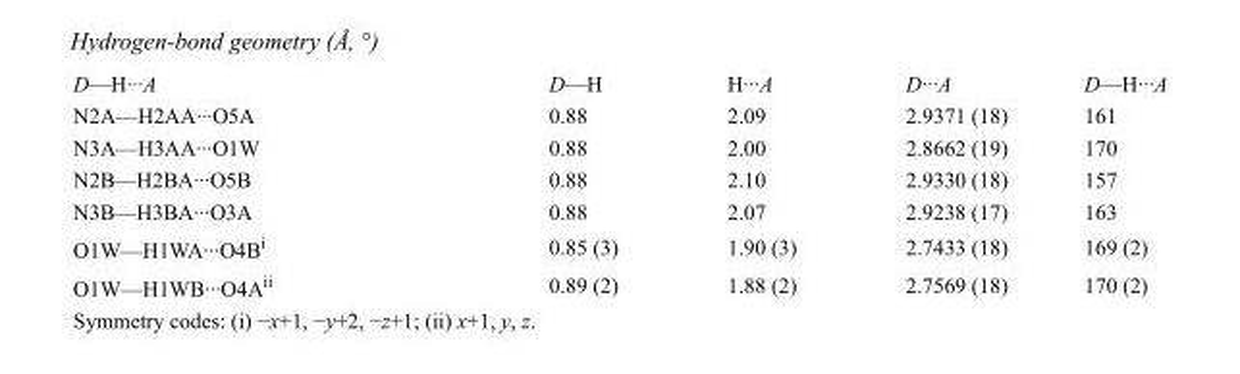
<table><tbody><tr><td>D—H···A</td><td>D—H</td><td>H···A</td><td>D···A</td><td>D—H···A</td></tr><tr><td>N2A—H2AA···O5A</td><td>0.88</td><td>2.09</td><td>2.9371 (18)</td><td>161</td></tr><tr><td>N3A—H3AA···O1W</td><td>0.88</td><td>2.00</td><td>2.8662 (19)</td><td>170</td></tr><tr><td>N2B—H2BA···O5B</td><td>0.88</td><td>2.10</td><td>2.9330 (18)</td><td>157</td></tr><tr><td>N3B—H3BA···O3A</td><td>0.88</td><td>2.07</td><td>2.9238 (17)</td><td>163</td></tr><tr><td>O1W—H1WA···O4B<sup>i</sup></td><td>0.85 (3)</td><td>1.90 (3)</td><td>2.7433 (18)</td><td>169 (2)</td></tr><tr><td>O1W—H1WB···O4A<sup>ii</sup></td><td>0.89 (2)</td><td>1.88 (2)</td><td>2.7569 (18)</td><td>170 (2)</td></tr></tbody></table>